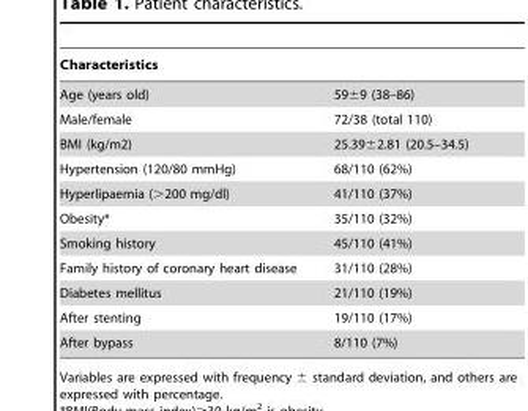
<table><thead><tr><td colspan="2">Characteristics</td></tr><tr><td>Age (years old)</td><td>59±9 (38–86)</td></tr></thead><tbody><tr><td>Male/female</td><td>72/38 (total 110)</td></tr><tr><td>BMI (kg/m2)</td><td>25.39±2.81 (20.5–34.5)</td></tr><tr><td>Hypertension (120/80 mmHg)</td><td>68/110 (62%)</td></tr><tr><td>Hyperlipaemia (&gt;200 mg/dl)</td><td>41/110 (37%)</td></tr><tr><td>Obesity*</td><td>35/110 (32%)</td></tr><tr><td>Smoking history</td><td>45/110 (41%)</td></tr><tr><td>Family history of coronary heart disease</td><td>31/110 (28%)</td></tr><tr><td>Diabetes mellitus</td><td>21/110 (19%)</td></tr><tr><td>After stenting</td><td>19/110 (17%)</td></tr><tr><td>After bypass</td><td>8/110 (7%)</td></tr></tbody></table>